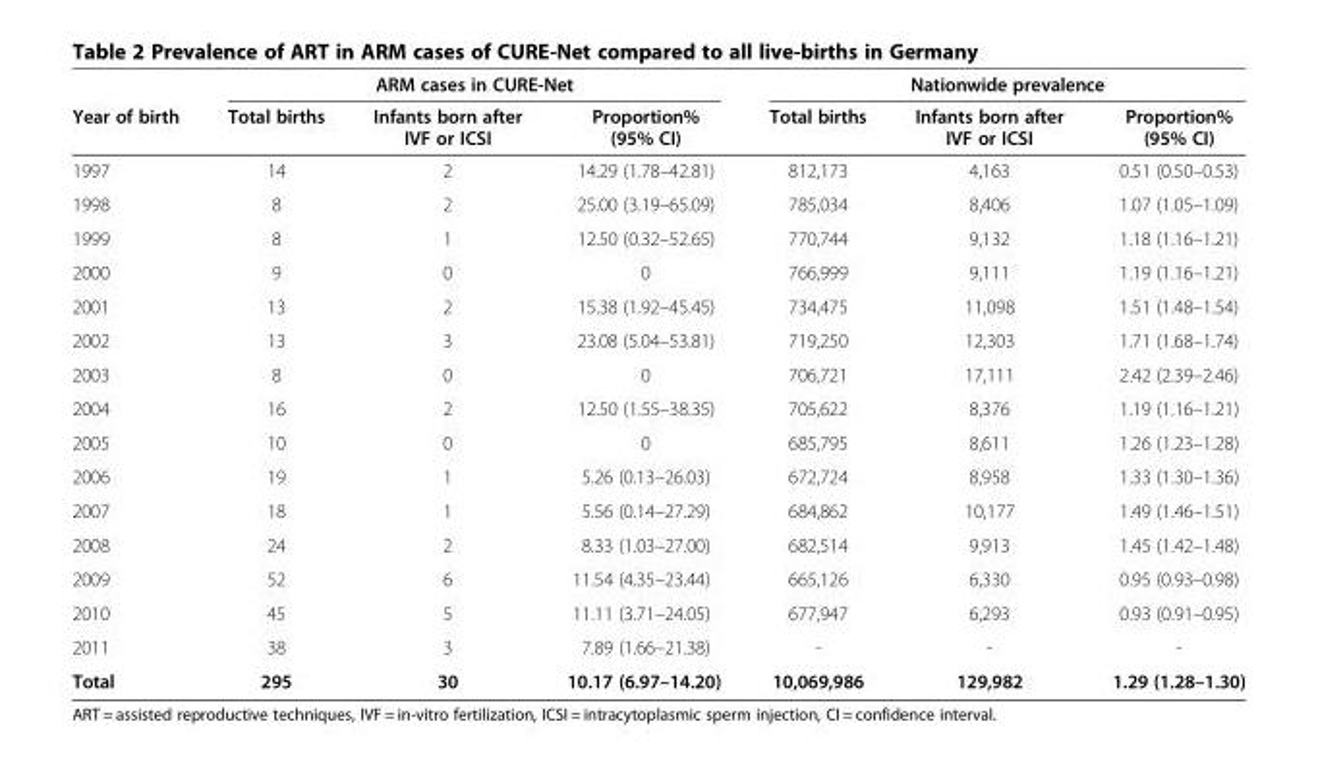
<table><thead><tr><td rowspan="2">Year of birth</td><td colspan="3">ARM cases in CURE-Net</td><td colspan="3">Nationwide prevalence</td></tr><tr><td>Total births</td><td>Infants born after IVF or ICSI</td><td>Proportion% (95% CI)</td><td>Total births</td><td>Infants born after IVF or ICSI</td><td>Proportion% (95% CI)</td></tr></thead><tbody><tr><td>1997</td><td>14</td><td>2</td><td>14.29 (1.78–42.81)</td><td>812,173</td><td>4,163</td><td>0.51 (0.50–0.53)</td></tr><tr><td>1998</td><td>8</td><td>2</td><td>25.00 (3.19–65.09)</td><td>785,034</td><td>8,406</td><td>1.07 (1.05–1.09)</td></tr><tr><td>1999</td><td>8</td><td>1</td><td>12.50 (0.32–52.65)</td><td>770,744</td><td>9,132</td><td>1.18 (1.16–1.21)</td></tr><tr><td>2000</td><td>9</td><td>0</td><td>0</td><td>766,999</td><td>9,111</td><td>1.19 (1.16–1.21)</td></tr><tr><td>2001</td><td>13</td><td>2</td><td>15.38 (1.92–45.45)</td><td>734,475</td><td>11,098</td><td>1.51 (1.48–1.54)</td></tr><tr><td>2002</td><td>13</td><td>3</td><td>23.08 (5.04–53.81)</td><td>719,250</td><td>12,303</td><td>1.71 (1.68–1.74)</td></tr><tr><td>2003</td><td>8</td><td>0</td><td>0</td><td>706,721</td><td>17,111</td><td>2.42 (2.39–2.46)</td></tr><tr><td>2004</td><td>16</td><td>2</td><td>12.50 (1.55–38.35)</td><td>705,622</td><td>8,376</td><td>1.19 (1.16–1.21)</td></tr><tr><td>2005</td><td>10</td><td>0</td><td>0</td><td>685,795</td><td>8,611</td><td>1.26 (1.23–1.28)</td></tr><tr><td>2006</td><td>19</td><td>1</td><td>5.26 (0.13–26.03)</td><td>672,724</td><td>8,958</td><td>1.33 (1.30–1.36)</td></tr><tr><td>2007</td><td>18</td><td>1</td><td>5.56 (0.14–27.29)</td><td>684,862</td><td>10,177</td><td>1.49 (1.46–1.51)</td></tr><tr><td>2008</td><td>24</td><td>2</td><td>8.33 (1.03–27.00)</td><td>682,514</td><td>9,913</td><td>1.45 (1.42–1.48)</td></tr><tr><td>2009</td><td>52</td><td>6</td><td>11.54 (4.35–23.44)</td><td>665,126</td><td>6,330</td><td>0.95 (0.93–0.98)</td></tr><tr><td>2010</td><td>45</td><td>5</td><td>11.11 (3.71–24.05)</td><td>677,947</td><td>6,293</td><td>0.93 (0.91–0.95)</td></tr><tr><td>2011</td><td>38</td><td>3</td><td>7.89 (1.66–21.38)</td><td>-</td><td>-</td><td>-</td></tr><tr><td>Total</td><td>295</td><td>30</td><td>10.17 (6.97–14.20)</td><td>10,069,986</td><td>129,982</td><td>1.29 (1.28–1.30)</td></tr></tbody></table>